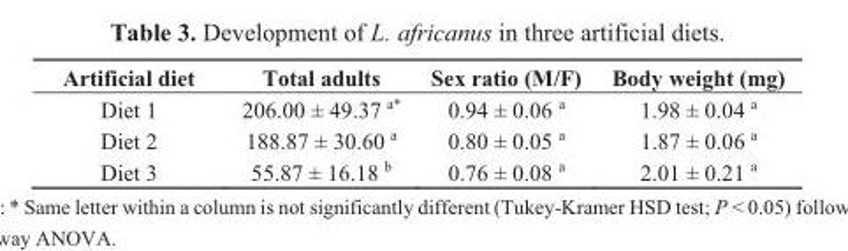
<table><thead><tr><td>Artificial diet</td><td>Total adults</td><td>Sex ratio (M/F)</td><td>Body weight (mg)</td></tr></thead><tbody><tr><td>Diet 1</td><td>206.00 ± 49.37 <sup>a*</sup></td><td>0.94 ± 0.06 <sup>a</sup></td><td>1.98 ± 0.04 <sup>a</sup></td></tr><tr><td>Diet 2</td><td>188.87 ± 30.60 <sup>a</sup></td><td>0.80 ± 0.05 <sup>a</sup></td><td>1.87 ± 0.06 <sup>a</sup></td></tr><tr><td>Diet 3</td><td>55.87 ± 16.18 <sup>b</sup></td><td>0.76 ± 0.08 <sup>a</sup></td><td>2.01 ± 0.21 <sup>a</sup></td></tr></tbody></table>